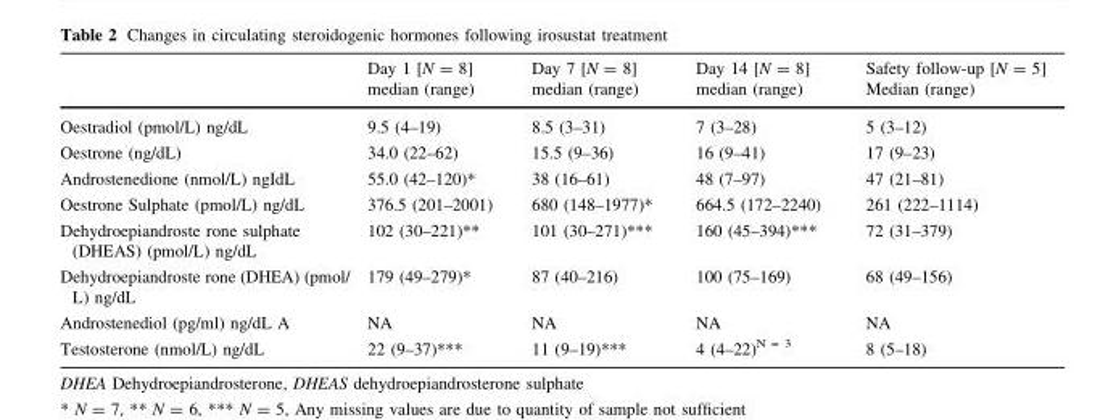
<table><thead><tr><td></td><td>Day 1 [N = 8] median (range)</td><td>Day 7 [N = 8] median (range)</td><td>Day 14 [N = 8] median (range)</td><td>Safety follow-up [N = 5] Median (range)</td></tr></thead><tbody><tr><td>Oestradiol (pmol/L) ng/dL</td><td>9.5 (4–19)</td><td>8.5 (3–31)</td><td>7 (3–28)</td><td>5 (3–12)</td></tr><tr><td>Oestrone (ng/dL)</td><td>34.0 (22–62)</td><td>15.5 (9–36)</td><td>16 (9–41)</td><td>17 (9–23)</td></tr><tr><td>Androstenedione (nmol/L) ngIdL</td><td>55.0 (42–120)*</td><td>38 (16–61)</td><td>48 (7–97)</td><td>47 (21–81)</td></tr><tr><td>Oestrone Sulphate (pmol/L) ng/dL</td><td>376.5 (201–2001)</td><td>680 (148–1977)*</td><td>664.5 (172–2240)</td><td>261 (222–1114)</td></tr><tr><td>Dehydroepiandroste rone sulphate (DHEAS) (pmol/L) ng/dL</td><td>102 (30–221)**</td><td>101 (30–271)***</td><td>160 (45–394)***</td><td>72 (31–379)</td></tr><tr><td>Dehydroepiandroste rone (DHEA) (pmol/ L) ng/dL</td><td>179 (49–279)*</td><td>87 (40–216)</td><td>100 (75–169)</td><td>68 (49–156)</td></tr><tr><td>Androstenediol (pg/ml) ng/dL A</td><td>NA</td><td>NA</td><td>NA</td><td>NA</td></tr><tr><td>Testosterone (nmol/L) ng/dL</td><td>22 (9–37)***</td><td>11 (9–19)***</td><td>4 (4–22)<sup>N = 3</sup></td><td>8 (5–18)</td></tr></tbody></table>